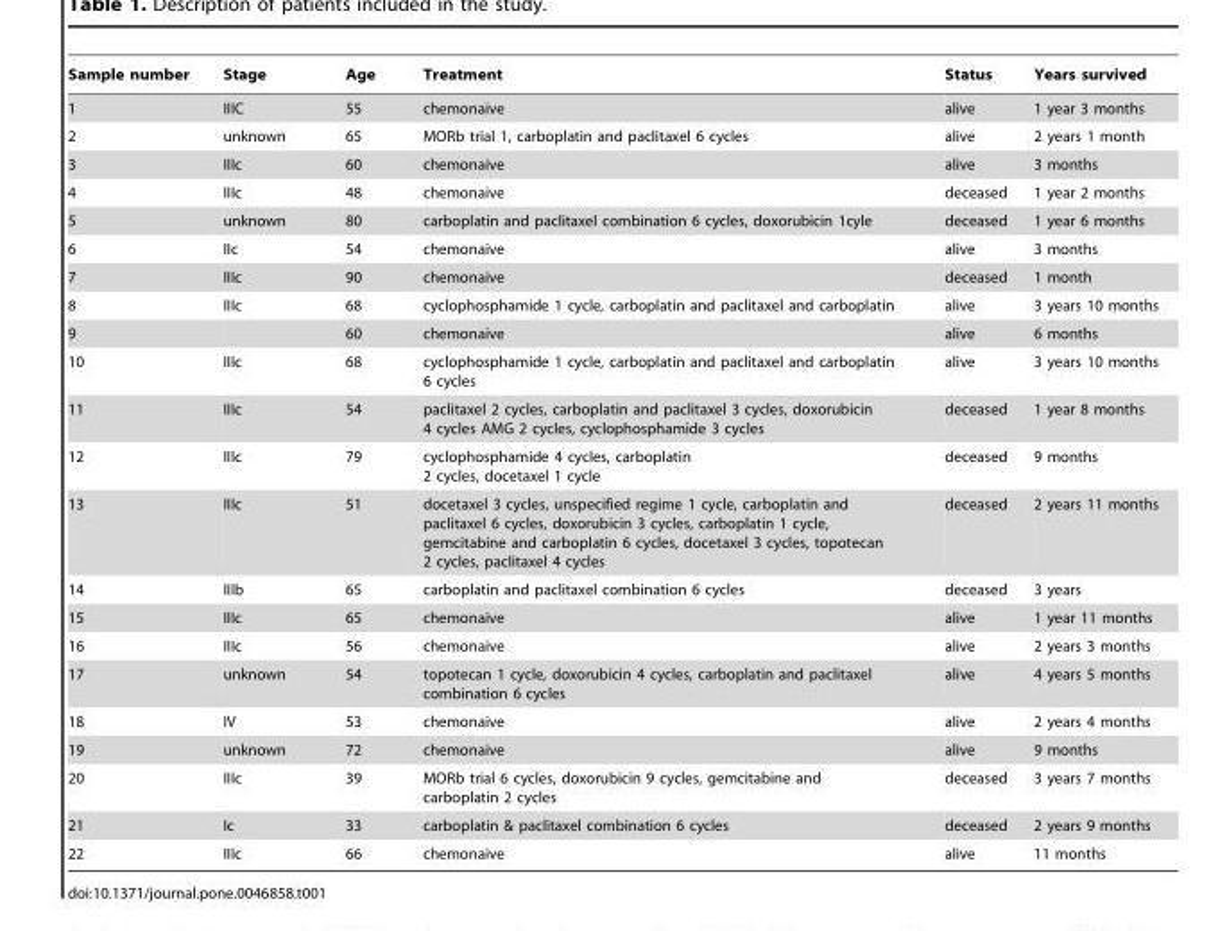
<table><thead><tr><td>Sample number</td><td>Stage</td><td>Age</td><td>Treatment</td><td>Status</td><td>Years survived</td></tr></thead><tbody><tr><td>1</td><td>IIIC</td><td>55</td><td>chemonaive</td><td>alive</td><td>1 year 3 months</td></tr><tr><td>2</td><td>unknown</td><td>65</td><td>MORb trial 1, carboplatin and paclitaxel 6 cycles</td><td>alive</td><td>2 years 1 month</td></tr><tr><td>3</td><td>IIIc</td><td>60</td><td>chemonaive</td><td>alive</td><td>3 months</td></tr><tr><td>4</td><td>IIIc</td><td>48</td><td>chemonaive</td><td>deceased</td><td>1 year 2 months</td></tr><tr><td>5</td><td>unknown</td><td>80</td><td>carboplatin and paclitaxel combination 6 cycles, doxorubicin 1cyle</td><td>deceased</td><td>1 year 6 months</td></tr><tr><td>6</td><td>IIc</td><td>54</td><td>chemonaive</td><td>alive</td><td>3 months</td></tr><tr><td>7</td><td>IIIc</td><td>90</td><td>chemonaive</td><td>deceased</td><td>1 month</td></tr><tr><td>8</td><td>IIIc</td><td>68</td><td>cyclophosphamide 1 cycle, carboplatin and paclitaxel and carboplatin</td><td>alive</td><td>3 years 10 months</td></tr><tr><td>9</td><td></td><td>60</td><td>chemonaive</td><td>alive</td><td>6 months</td></tr><tr><td>10</td><td>IIIc</td><td>68</td><td>cyclophosphamide 1 cycle, carboplatin and paclitaxel and carboplatin 6 cycles</td><td>alive</td><td>3 years 10 months</td></tr><tr><td>11</td><td>IIIc</td><td>54</td><td>paclitaxel 2 cycles, carboplatin and paclitaxel 3 cycles, doxorubicin 4 cycles AMG 2 cycles, cyclophosphamide 3 cycles</td><td>deceased</td><td>1 year 8 months</td></tr><tr><td>12</td><td>IIIc</td><td>79</td><td>cyclophosphamide 4 cycles, carboplatin 2 cycles, docetaxel 1 cycle</td><td>deceased</td><td>9 months</td></tr><tr><td>13</td><td>IIIc</td><td>51</td><td>docetaxel 3 cycles, unspecified regime 1 cycle, carboplatin and paclitaxel 6 cycles, doxorubicin 3 cycles, carboplatin 1 cycle, gemcitabine and carboplatin 6 cycles, docetaxel 3 cycles, topotecan 2 cycles, paclitaxel 4 cycles</td><td>deceased</td><td>2 years 11 months</td></tr><tr><td>14</td><td>IIIb</td><td>65</td><td>carboplatin and paclitaxel combination 6 cycles</td><td>deceased</td><td>3 years</td></tr><tr><td>15</td><td>IIIc</td><td>65</td><td>chemonaive</td><td>alive</td><td>1 year 11 months</td></tr><tr><td>16</td><td>IIIc</td><td>56</td><td>chemonaive</td><td>alive</td><td>2 years 3 months</td></tr><tr><td>17</td><td>unknown</td><td>54</td><td>topotecan 1 cycle, doxorubicin 4 cycles, carboplatin and paclitaxel combination 6 cycles</td><td>alive</td><td>4 years 5 months</td></tr><tr><td>18</td><td>IV</td><td>53</td><td>chemonaive</td><td>alive</td><td>2 years 4 months</td></tr><tr><td>19</td><td>unknown</td><td>72</td><td>chemonaive</td><td>alive</td><td>9 months</td></tr><tr><td>20</td><td>IIIc</td><td>39</td><td>MORb trial 6 cycles, doxorubicin 9 cycles, gemcitabine and carboplatin 2 cycles</td><td>deceased</td><td>3 years 7 months</td></tr><tr><td>21</td><td>Ic</td><td>33</td><td>carboplatin &amp; paclitaxel combination 6 cycles</td><td>deceased</td><td>2 years 9 months</td></tr><tr><td>22</td><td>IIIc</td><td>66</td><td>chemonaive</td><td>alive</td><td>11 months</td></tr></tbody></table>